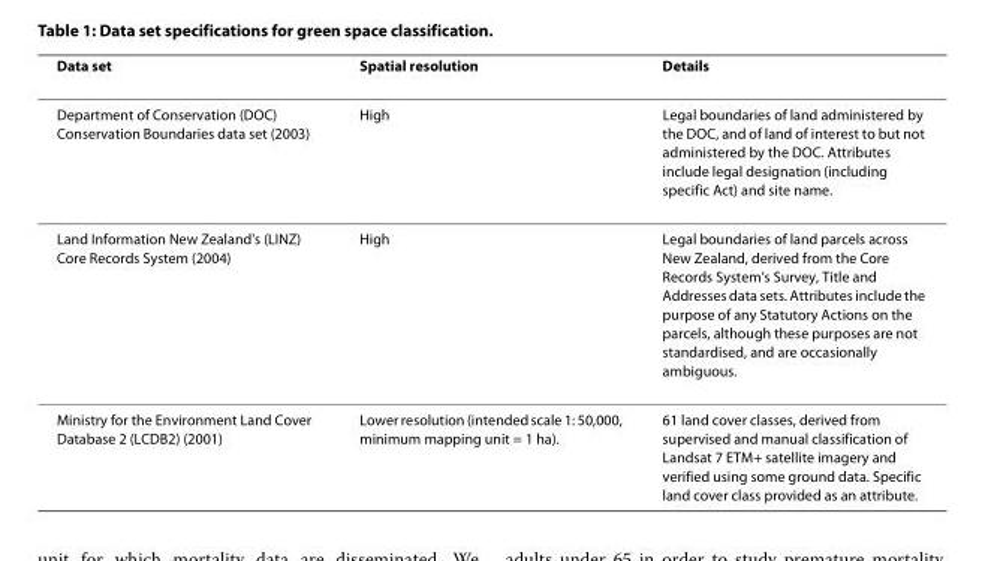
<table><thead><tr><td>Data set</td><td>Spatial resolution</td><td>Details</td></tr></thead><tbody><tr><td>Department of Conservation (DOC) Conservation Boundaries data set (2003)</td><td>High</td><td>Legal boundaries of land administered by the DOC, and of land of interest to but not administered by the DOC. Attributes include legal designation (including specific Act) and site name.</td></tr><tr><td>Land Information New Zealand&#x27;s (LINZ) Core Records System (2004)</td><td>High</td><td>Legal boundaries of land parcels across New Zealand, derived from the Core Records System&#x27;s Survey, Title and Addresses data sets. Attributes include the purpose of any Statutory Actions on the parcels, although these purposes are not standardised, and are occasionally ambiguous.</td></tr><tr><td>Ministry for the Environment Land Cover Database 2 (LCDB2) (2001)</td><td>Lower resolution (intended scale 1: 50,000, minimum mapping unit = 1 ha).</td><td>61 land cover classes, derived from supervised and manual classification of Landsat 7 ETM+ satellite imagery and verified using some ground data. Specific land cover class provided as an attribute.</td></tr></tbody></table>